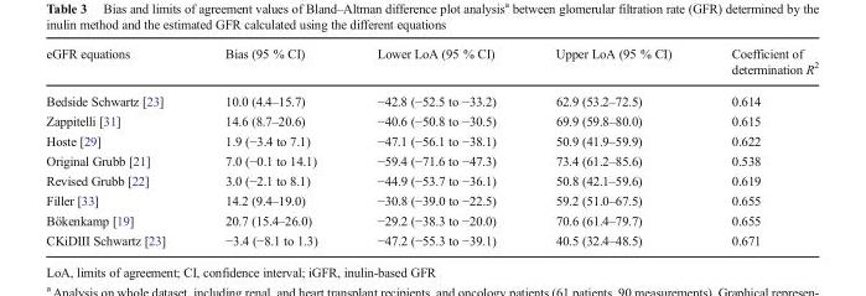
<table><thead><tr><td>eGFR equations</td><td>Bias (95 % CI)</td><td>Lower LoA (95 % CI)</td><td>Upper LoA (95 % CI)</td><td>Coefficient of determination R<sup>2</sup></td></tr></thead><tbody><tr><td>Bedside Schwartz [23]</td><td>10.0 (4.4–15.7)</td><td>−42.8 (−52.5 to −33.2)</td><td>62.9 (53.2–72.5)</td><td>0.614</td></tr><tr><td>Zappitelli [31]</td><td>14.6 (8.7–20.6)</td><td>−40.6 (−50.8 to −30.5)</td><td>69.9 (59.8–80.0)</td><td>0.615</td></tr><tr><td>Hoste [29]</td><td>1.9 (−3.4 to 7.1)</td><td>−47.1 (−56.1 to −38.1)</td><td>50.9 (41.9–59.9)</td><td>0.622</td></tr><tr><td>Original Grubb [21]</td><td>7.0 (−0.1 to 14.1)</td><td>−59.4 (−71.6 to −47.3)</td><td>73.4 (61.2–85.6)</td><td>0.538</td></tr><tr><td>Revised Grubb [22]</td><td>3.0 (−2.1 to 8.1)</td><td>−44.9 (−53.7 to −36.1)</td><td>50.8 (42.1–59.6)</td><td>0.619</td></tr><tr><td>Filler [33]</td><td>14.2 (9.4–19.0)</td><td>−30.8 (−39.0 to −22.5)</td><td>59.2 (51.0–67.5)</td><td>0.655</td></tr><tr><td>Bökenkamp [19]</td><td>20.7 (15.4–26.0)</td><td>−29.2 (−38.3 to −20.0)</td><td>70.6 (61.4–79.7)</td><td>0.655</td></tr><tr><td>CKiDIII Schwartz [23]</td><td>−3.4 (−8.1 to 1.3)</td><td>−47.2 (−55.3 to −39.1)</td><td>40.5 (32.4–48.5)</td><td>0.671</td></tr></tbody></table>